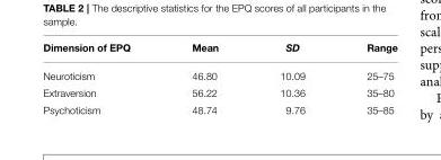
<table><thead><tr><td>Dimension of EPQ</td><td>Mean</td><td>SD</td><td>Range</td></tr></thead><tbody><tr><td>Neuroticism</td><td>46.80</td><td>10.09</td><td>25–75</td></tr><tr><td>Extraversion</td><td>56.22</td><td>10.36</td><td>35–80</td></tr><tr><td>Psychoticism</td><td>48.74</td><td>9.76</td><td>35–85</td></tr></tbody></table>